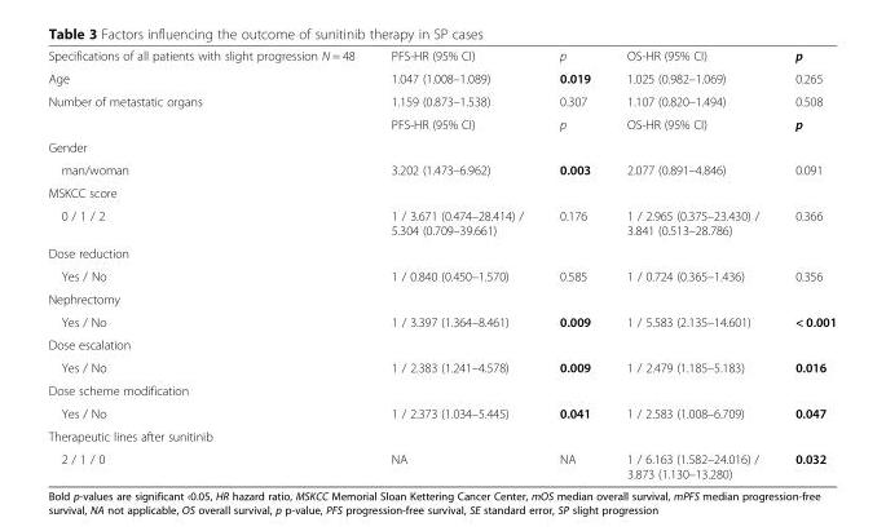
<table><tbody><tr><td>Specifications of all patients with slight progression N = 48</td><td>PFS-HR (95% CI)</td><td>p</td><td>OS-HR (95% CI)</td><td>p</td></tr><tr><td>Age</td><td>1.047 (1.008–1.089)</td><td>0.019</td><td>1.025 (0.982–1.069)</td><td>0.265</td></tr><tr><td rowspan="2">Number of metastatic organs</td><td>1.159 (0.873–1.538)</td><td>0.307</td><td>1.107 (0.820–1.494)</td><td>0.508</td></tr><tr><td>PFS-HR (95% CI)</td><td>p</td><td>OS-HR (95% CI)</td><td>p</td></tr><tr><td colspan="5">Gender</td></tr><tr><td>man/woman</td><td>3.202 (1.473–6.962)</td><td>0.003</td><td>2.077 (0.891–4.846)</td><td>0.091</td></tr><tr><td colspan="5">MSKCC score</td></tr><tr><td>0 / 1 / 2</td><td>1 / 3.671 (0.474–28.414) / 5.304 (0.709–39.661)</td><td>0.176</td><td>1 / 2.965 (0.375–23.430) / 3.841 (0.513–28.786)</td><td>0.366</td></tr><tr><td colspan="5">Dose reduction</td></tr><tr><td>Yes / No</td><td>1 / 0.840 (0.450–1.570)</td><td>0.585</td><td>1 / 0.724 (0.365–1.436)</td><td>0.356</td></tr><tr><td colspan="5">Nephrectomy</td></tr><tr><td>Yes / No</td><td>1 / 3.397 (1.364–8.461)</td><td>0.009</td><td>1 / 5.583 (2.135–14.601)</td><td>&lt; 0.001</td></tr><tr><td colspan="5">Dose escalation</td></tr><tr><td>Yes / No</td><td>1 / 2.383 (1.241–4.578)</td><td>0.009</td><td>1 / 2.479 (1.185–5.183)</td><td>0.016</td></tr><tr><td colspan="5">Dose scheme modification</td></tr><tr><td>Yes / No</td><td>1 / 2.373 (1.034–5.445)</td><td>0.041</td><td>1 / 2.583 (1.008–6.709)</td><td>0.047</td></tr><tr><td colspan="5">Therapeutic lines after sunitinib</td></tr><tr><td>2 / 1 / 0</td><td>NA</td><td>NA</td><td>1 / 6.163 (1.582–24.016) / 3.873 (1.130–13.280)</td><td>0.032</td></tr></tbody></table>